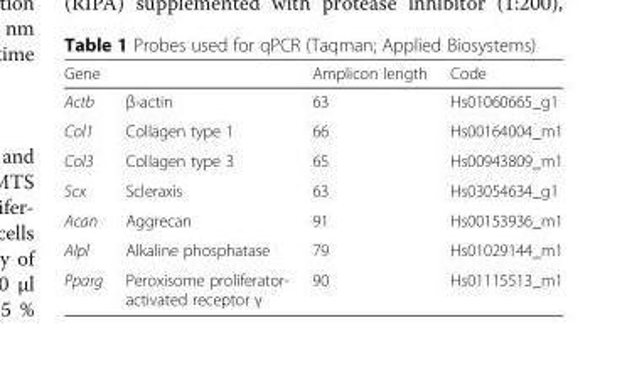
<table><thead><tr><td colspan="2">Gene</td><td rowspan="2">Amplicon length 63</td><td rowspan="2">Code Hs01060665_g1</td></tr><tr><td>Actb</td><td>β-actin</td></tr></thead><tbody><tr><td>Col1</td><td>Collagen type 1</td><td>66</td><td>Hs00164004_m1</td></tr><tr><td>Col3</td><td>Collagen type 3</td><td>65</td><td>Hs00943809_m1</td></tr><tr><td>Scx</td><td>Scleraxis</td><td>63</td><td>Hs03054634_g1</td></tr><tr><td>Acan</td><td>Aggrecan</td><td>91</td><td>Hs00153936_m1</td></tr><tr><td>Alpl</td><td>Alkaline phosphatase</td><td>79</td><td>Hs01029144_m1</td></tr><tr><td>Pparg</td><td>Peroxisome proliferator- activated receptor γ</td><td>90</td><td>Hs01115513_m1</td></tr></tbody></table>